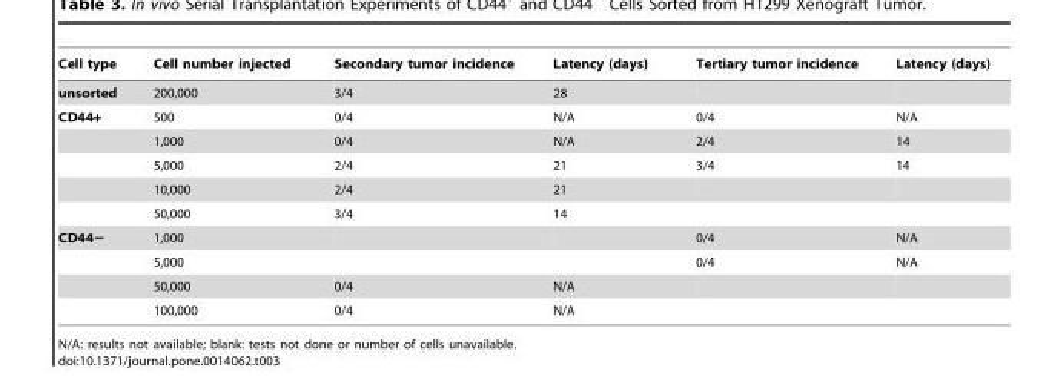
<table><thead><tr><td>Cell type</td><td>Cell number injected</td><td>Secondary tumor incidence</td><td>Latency (days)</td><td>Tertiary tumor incidence</td><td>Latency (days)</td></tr></thead><tbody><tr><td>unsorted</td><td>200,000</td><td>3/4</td><td>28</td><td></td><td></td></tr><tr><td rowspan="5">CD44+</td><td>500</td><td>0/4</td><td>N/A</td><td>0/4</td><td>N/A</td></tr><tr><td>1,000</td><td>0/4</td><td>N/A</td><td>2/4</td><td>14</td></tr><tr><td>5,000</td><td>2/4</td><td>21</td><td>3/4</td><td>14</td></tr><tr><td>10,000</td><td>2/4</td><td>21</td><td></td><td></td></tr><tr><td>50,000</td><td>3/4</td><td>14</td><td></td><td></td></tr><tr><td rowspan="4">CD44−</td><td>1,000</td><td></td><td></td><td>0/4</td><td>N/A</td></tr><tr><td>5,000</td><td></td><td></td><td>0/4</td><td>N/A</td></tr><tr><td>50,000</td><td>0/4</td><td>N/A</td><td></td><td></td></tr><tr><td>100,000</td><td>0/4</td><td>N/A</td><td></td><td></td></tr></tbody></table>